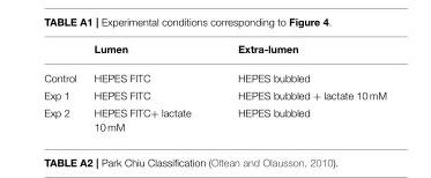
<table><thead><tr><td></td><td>Lumen</td><td>Extra-lumen</td></tr></thead><tbody><tr><td>Control</td><td>HEPES FITC</td><td>HEPES bubbled</td></tr><tr><td>Exp 1</td><td>HEPES FITC</td><td>HEPES bubbled + lactate 10 mM</td></tr><tr><td>Exp 2</td><td>HEPES FITC+ lactate 10 mM</td><td>HEPES bubbled</td></tr></tbody></table>